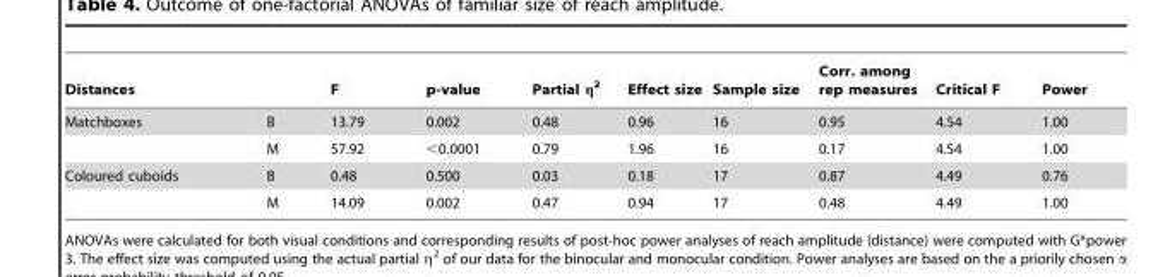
<table><thead><tr><td>Distances</td><td></td><td>F</td><td>p-value</td><td>Partial η<sup>2</sup></td><td>Effect size</td><td>Sample size</td><td>Corr. among rep measures</td><td>Critical F</td><td>Power</td></tr></thead><tbody><tr><td rowspan="2">Matchboxes</td><td>B</td><td>13.79</td><td>0.002</td><td>0.48</td><td>0.96</td><td>16</td><td>0.95</td><td>4.54</td><td>1.00</td></tr><tr><td>M</td><td>57.92</td><td>&lt;0.0001</td><td>0.79</td><td>1.96</td><td>16</td><td>0.17</td><td>4.54</td><td>1.00</td></tr><tr><td rowspan="2">Coloured cuboids</td><td>B</td><td>0.48</td><td>0.500</td><td>0.03</td><td>0.18</td><td>17</td><td>0.87</td><td>4.49</td><td>0.76</td></tr><tr><td>M</td><td>14.09</td><td>0.002</td><td>0.47</td><td>0.94</td><td>17</td><td>0.48</td><td>4.49</td><td>1.00</td></tr></tbody></table>